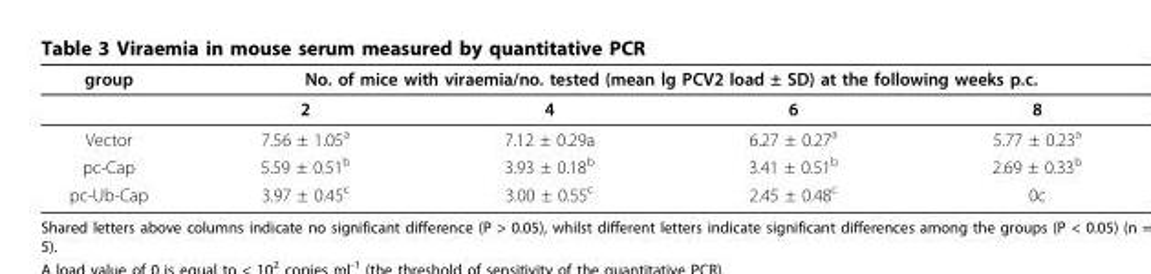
<table><thead><tr><td rowspan="2">group</td><td colspan="4">No. of mice with viraemia/no. tested (mean lg PCV2 load ± SD) at the following weeks p.c.</td></tr><tr><td>2</td><td>4</td><td>6</td><td>8</td></tr></thead><tbody><tr><td>Vector</td><td>7.56 ± 1.05<sup>a</sup></td><td>7.12 ± 0.29a</td><td>6.27 ± 0.27<sup>a</sup></td><td>5.77 ± 0.23<sup>a</sup></td></tr><tr><td>pc-Cap</td><td>5.59 ± 0.51<sup>b</sup></td><td>3.93 ± 0.18<sup>b</sup></td><td>3.41 ± 0.51<sup>b</sup></td><td>2.69 ± 0.33<sup>b</sup></td></tr><tr><td>pc-Ub-Cap</td><td>3.97 ± 0.45<sup>c</sup></td><td>3.00 ± 0.55<sup>c</sup></td><td>2.45 ± 0.48<sup>c</sup></td><td>0c</td></tr></tbody></table>